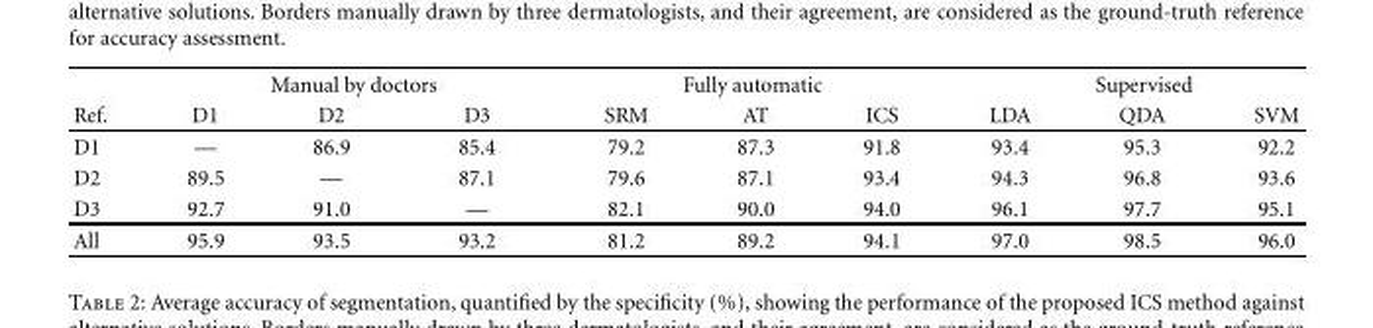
<table><thead><tr><td rowspan="2">Ref.</td><td colspan="3">Manual by doctors</td><td colspan="3">Fully automatic</td><td colspan="3">Supervised</td></tr><tr><td>D1</td><td>D2</td><td>D3</td><td>SRM</td><td>AT</td><td>ICS</td><td>LDA</td><td>QDA</td><td>SVM</td></tr></thead><tbody><tr><td>D1</td><td>—</td><td>86.9</td><td>85.4</td><td>79.2</td><td>87.3</td><td>91.8</td><td>93.4</td><td>95.3</td><td>92.2</td></tr><tr><td>D2</td><td>89.5</td><td>—</td><td>87.1</td><td>79.6</td><td>87.1</td><td>93.4</td><td>94.3</td><td>96.8</td><td>93.6</td></tr><tr><td>D3</td><td>92.7</td><td>91.0</td><td>—</td><td>82.1</td><td>90.0</td><td>94.0</td><td>96.1</td><td>97.7</td><td>95.1</td></tr><tr><td>All</td><td>95.9</td><td>93.5</td><td>93.2</td><td>81.2</td><td>89.2</td><td>94.1</td><td>97.0</td><td>98.5</td><td>96.0</td></tr></tbody></table>